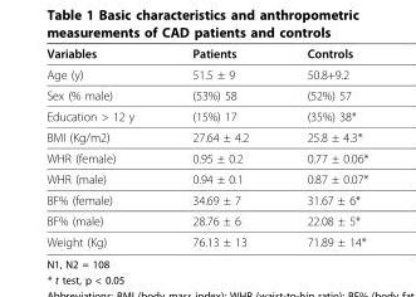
<table><thead><tr><td>Variables</td><td>Patients</td><td>Controls</td></tr></thead><tbody><tr><td>Age (y)</td><td>51.5 ± 9</td><td>50.8+9.2</td></tr><tr><td>Sex (% male)</td><td>(53%) 58</td><td>(52%) 57</td></tr><tr><td>Education &gt; 12 y</td><td>(15%) 17</td><td>(35%) 38*</td></tr><tr><td>BMI (Kg/m2)</td><td>27.64 ± 4.2</td><td>25.8 ± 4.3*</td></tr><tr><td>WHR (female)</td><td>0.95 ± 0.2</td><td>0.77 ± 0.06*</td></tr><tr><td>WHR (male)</td><td>0.94 ± 0.1</td><td>0.87 ± 0.07*</td></tr><tr><td>BF% (female)</td><td>34.69 ± 7</td><td>31.67 ± 6*</td></tr><tr><td>BF% (male)</td><td>28.76 ± 6</td><td>22.08 ± 5*</td></tr><tr><td>Weight (Kg)</td><td>76.13 ± 13</td><td>71.89 ± 14*</td></tr></tbody></table>